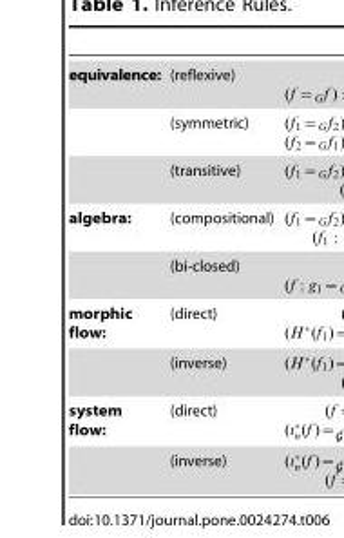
<table><tbody><tr><td rowspan="3">equivalence:</td><td>(reflexive)</td></tr><tr><td>(symmetric)</td></tr><tr><td>(transitive)</td></tr><tr><td rowspan="2">algebra:</td><td>(compositional)</td></tr><tr><td>(bi-closed)</td></tr><tr><td rowspan="2">morphic flow:</td><td>(direct)</td></tr><tr><td>(inverse)</td></tr><tr><td rowspan="2">system flow:</td><td>(direct)</td></tr><tr><td>(inverse)</td></tr></tbody></table>